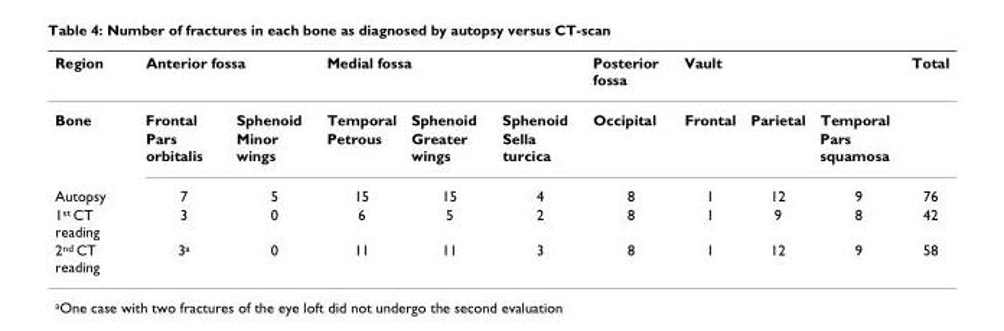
<table><thead><tr><td rowspan="2">Region Bone</td><td colspan="2">Anterior fossa</td><td colspan="3">Medial fossa</td><td rowspan="2">Posterior fossa Occipital</td><td colspan="2">Vault</td><td rowspan="2">Temporal</td><td rowspan="2">Total</td></tr><tr><td>Frontal</td><td>Sphenoid</td><td>Temporal</td><td>Sphenoid</td><td>Sphenoid</td><td>Frontal</td><td>Parietal</td></tr></thead><tbody><tr><td></td><td>Pars orbitalis</td><td>Minor wings</td><td>Petrous</td><td>Greater wings</td><td>Sella turcica</td><td></td><td></td><td></td><td>Pars squamosa</td><td></td></tr><tr><td>Autopsy</td><td>7</td><td>5</td><td>15</td><td>15</td><td>4</td><td>8</td><td>1</td><td>12</td><td>9</td><td>76</td></tr><tr><td>1<sup>st</sup> CT reading</td><td>3</td><td>0</td><td>6</td><td>5</td><td>2</td><td>8</td><td>1</td><td>9</td><td>8</td><td>42</td></tr><tr><td>2<sup>nd</sup> CT reading</td><td>3<sup>a</sup></td><td>0</td><td>11</td><td>11</td><td>3</td><td>8</td><td>1</td><td>12</td><td>9</td><td>58</td></tr></tbody></table>